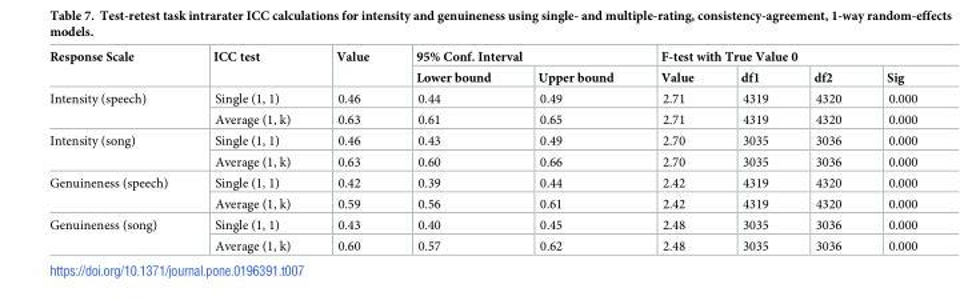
<table><thead><tr><td rowspan="2">Response Scale</td><td rowspan="2">ICC test</td><td rowspan="2">Value</td><td colspan="2">95% Conf. Interval</td><td colspan="4">F-test with True Value 0</td></tr><tr><td>Lower bound</td><td>Upper bound</td><td>Value</td><td>df1</td><td>df2</td><td>Sig</td></tr></thead><tbody><tr><td rowspan="2">Intensity (speech)</td><td>Single (1, 1)</td><td>0.46</td><td>0.44</td><td>0.49</td><td>2.71</td><td>4319</td><td>4320</td><td>0.000</td></tr><tr><td>Average (1, k)</td><td>0.63</td><td>0.61</td><td>0.65</td><td>2.71</td><td>4319</td><td>4320</td><td>0.000</td></tr><tr><td rowspan="2">Intensity (song)</td><td>Single (1, 1)</td><td>0.46</td><td>0.43</td><td>0.49</td><td>2.70</td><td>3035</td><td>3036</td><td>0.000</td></tr><tr><td>Average (1, k)</td><td>0.63</td><td>0.60</td><td>0.66</td><td>2.70</td><td>3035</td><td>3036</td><td>0.000</td></tr><tr><td rowspan="2">Genuineness (speech)</td><td>Single (1, 1)</td><td>0.42</td><td>0.39</td><td>0.44</td><td>2.42</td><td>4319</td><td>4320</td><td>0.000</td></tr><tr><td>Average (1, k)</td><td>0.59</td><td>0.56</td><td>0.61</td><td>2.42</td><td>4319</td><td>4320</td><td>0.000</td></tr><tr><td rowspan="2">Genuineness (song)</td><td>Single (1, 1)</td><td>0.43</td><td>0.40</td><td>0.45</td><td>2.48</td><td>3035</td><td>3036</td><td>0.000</td></tr><tr><td>Average (1, k)</td><td>0.60</td><td>0.57</td><td>0.62</td><td>2.48</td><td>3035</td><td>3036</td><td>0.000</td></tr></tbody></table>